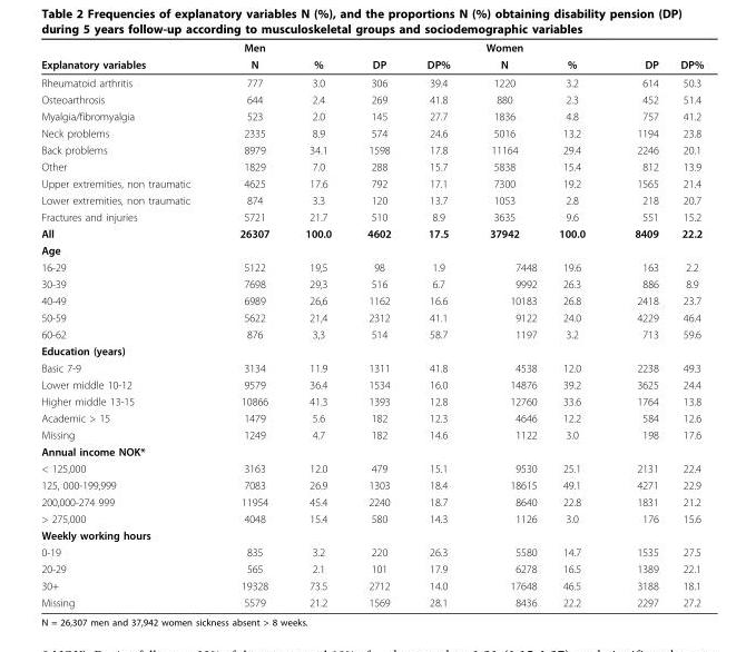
<table><thead><tr><td rowspan="2">Explanatory variables</td><td rowspan="2">Men N</td><td rowspan="2">%</td><td rowspan="2">DP</td><td rowspan="2">DP%</td><td rowspan="2">Women N</td><td rowspan="2">%</td><td rowspan="2">DP</td><td rowspan="2">DP%</td></tr><tr></tr></thead><tbody><tr><td>Rheumatoid arthritis</td><td>777</td><td>3.0</td><td>306</td><td>39.4</td><td>1220</td><td>3.2</td><td>614</td><td>50.3</td></tr><tr><td>Osteoarthrosis</td><td>644</td><td>2.4</td><td>269</td><td>41.8</td><td>880</td><td>2.3</td><td>452</td><td>51.4</td></tr><tr><td>Myalgia/fibromyalgia</td><td>523</td><td>2.0</td><td>145</td><td>27.7</td><td>1836</td><td>4.8</td><td>757</td><td>41.2</td></tr><tr><td>Neck problems</td><td>2335</td><td>8.9</td><td>574</td><td>24.6</td><td>5016</td><td>13.2</td><td>1194</td><td>23.8</td></tr><tr><td>Back problems</td><td>8979</td><td>34.1</td><td>1598</td><td>17.8</td><td>11164</td><td>29.4</td><td>2246</td><td>20.1</td></tr><tr><td>Other</td><td>1829</td><td>7.0</td><td>288</td><td>15.7</td><td>5838</td><td>15.4</td><td>812</td><td>13.9</td></tr><tr><td>Upper extremities, non traumatic</td><td>4625</td><td>17.6</td><td>792</td><td>17.1</td><td>7300</td><td>19.2</td><td>1565</td><td>21.4</td></tr><tr><td>Lower extremities, non traumatic</td><td>874</td><td>3.3</td><td>120</td><td>13.7</td><td>1053</td><td>2.8</td><td>218</td><td>20.7</td></tr><tr><td>Fractures and injuries</td><td>5721</td><td>21.7</td><td>510</td><td>8.9</td><td>3635</td><td>9.6</td><td>551</td><td>15.2</td></tr><tr><td>All</td><td>26307</td><td>100.0</td><td>4602</td><td>17.5</td><td>37942</td><td>100.0</td><td>8409</td><td>22.2</td></tr><tr><td colspan="9">Age</td></tr><tr><td>16-29</td><td>5122</td><td>19,5</td><td>98</td><td>1.9</td><td>7448</td><td>19.6</td><td>163</td><td>2.2</td></tr><tr><td>30-39</td><td>7698</td><td>29,3</td><td>516</td><td>6.7</td><td>9992</td><td>26.3</td><td>886</td><td>8.9</td></tr><tr><td>40-49</td><td>6989</td><td>26,6</td><td>1162</td><td>16.6</td><td>10183</td><td>26.8</td><td>2418</td><td>23.7</td></tr><tr><td>50-59</td><td>5622</td><td>21,4</td><td>2312</td><td>41.1</td><td>9122</td><td>24.0</td><td>4229</td><td>46.4</td></tr><tr><td>60-62</td><td>876</td><td>3,3</td><td>514</td><td>58.7</td><td>1197</td><td>3.2</td><td>713</td><td>59.6</td></tr><tr><td colspan="9">Education (years)</td></tr><tr><td>Basic 7-9</td><td>3134</td><td>11.9</td><td>1311</td><td>41.8</td><td>4538</td><td>12.0</td><td>2238</td><td>49.3</td></tr><tr><td>Lower middle 10-12</td><td>9579</td><td>36.4</td><td>1534</td><td>16.0</td><td>14876</td><td>39.2</td><td>3625</td><td>24.4</td></tr><tr><td>Higher middle 13-15</td><td>10866</td><td>41.3</td><td>1393</td><td>12.8</td><td>12760</td><td>33.6</td><td>1764</td><td>13.8</td></tr><tr><td>Academic &gt; 15</td><td>1479</td><td>5.6</td><td>182</td><td>12.3</td><td>4646</td><td>12.2</td><td>584</td><td>12.6</td></tr><tr><td>Missing</td><td>1249</td><td>4.7</td><td>182</td><td>14.6</td><td>1122</td><td>3.0</td><td>198</td><td>17.6</td></tr><tr><td colspan="9">Annual income NOK*</td></tr><tr><td>&lt; 125,000</td><td>3163</td><td>12.0</td><td>479</td><td>15.1</td><td>9530</td><td>25.1</td><td>2131</td><td>22.4</td></tr><tr><td>125, 000-199,999</td><td>7083</td><td>26.9</td><td>1303</td><td>18.4</td><td>18615</td><td>49.1</td><td>4271</td><td>22.9</td></tr><tr><td>200,000-274 999</td><td>11954</td><td>45.4</td><td>2240</td><td>18.7</td><td>8640</td><td>22.8</td><td>1831</td><td>21.2</td></tr><tr><td>&gt; 275,000</td><td>4048</td><td>15.4</td><td>580</td><td>14.3</td><td>1126</td><td>3.0</td><td>176</td><td>15.6</td></tr><tr><td colspan="9">Weekly working hours</td></tr><tr><td>0-19</td><td>835</td><td>3.2</td><td>220</td><td>26.3</td><td>5580</td><td>14.7</td><td>1535</td><td>27.5</td></tr><tr><td>20-29</td><td>565</td><td>2.1</td><td>101</td><td>17.9</td><td>6278</td><td>16.5</td><td>1389</td><td>22.1</td></tr><tr><td>30+</td><td>19328</td><td>73.5</td><td>2712</td><td>14.0</td><td>17648</td><td>46.5</td><td>3188</td><td>18.1</td></tr><tr><td>Missing</td><td>5579</td><td>21.2</td><td>1569</td><td>28.1</td><td>8436</td><td>22.2</td><td>2297</td><td>27.2</td></tr></tbody></table>